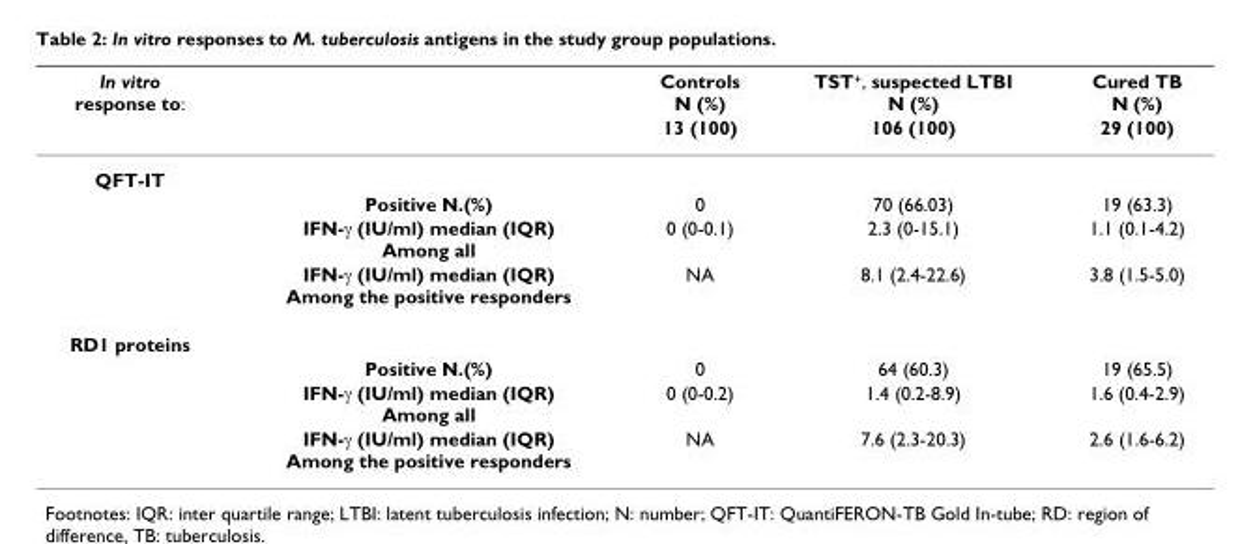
<table><thead><tr><td rowspan="2">In vitro response to:</td><td rowspan="2"></td><td rowspan="2">Controls N (%) 13 (100)</td><td rowspan="2">TST<sup>+</sup>, suspected LTBI N (%) 106 (100)</td><td rowspan="2">Cured TB N (%) 29 (100)</td></tr><tr></tr></thead><tbody><tr><td colspan="5">QFT-IT</td></tr><tr><td></td><td>Positive N.(%)</td><td>0</td><td>70 (66.03)</td><td>19 (63.3)</td></tr><tr><td></td><td>IFN-γ (IU/ml) median (IQR) Among all</td><td>0 (0-0.1)</td><td>2.3 (0-15.1)</td><td>1.1 (0.1-4.2)</td></tr><tr><td></td><td>IFN-γ (IU/ml) median (IQR) Among the positive responders</td><td>NA</td><td>8.1 (2.4-22.6)</td><td>3.8 (1.5-5.0)</td></tr><tr><td colspan="5">RD1 proteins</td></tr><tr><td></td><td>Positive N.(%)</td><td>0</td><td>64 (60.3)</td><td>19 (65.5)</td></tr><tr><td></td><td>IFN-γ (IU/ml) median (IQR) Among all</td><td>0 (0-0.2)</td><td>1.4 (0.2-8.9)</td><td>1.6 (0.4-2.9)</td></tr><tr><td></td><td>IFN-γ (IU/ml) median (IQR) Among the positive responders</td><td>NA</td><td>7.6 (2.3-20.3)</td><td>2.6 (1.6-6.2)</td></tr></tbody></table>